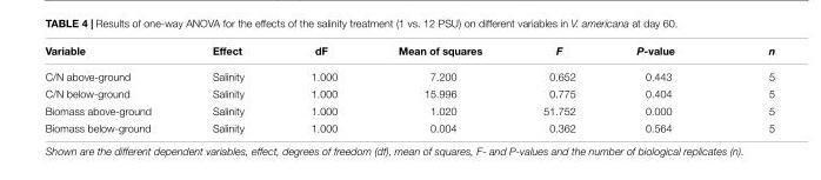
<table><thead><tr><td>Variable</td><td>Effect</td><td>dF</td><td>Mean of squares</td><td>F</td><td>P-value</td><td>n</td></tr></thead><tbody><tr><td>C/N above-ground</td><td>Salinity</td><td>1.000</td><td>7.200</td><td>0.652</td><td>0.443</td><td>5</td></tr><tr><td>C/N below-ground</td><td>Salinity</td><td>1.000</td><td>15.996</td><td>0.775</td><td>0.404</td><td>5</td></tr><tr><td>Biomass above-ground</td><td>Salinity</td><td>1.000</td><td>1.020</td><td>51.752</td><td>0.000</td><td>5</td></tr><tr><td>Biomass below-ground</td><td>Salinity</td><td>1.000</td><td>0.004</td><td>0.362</td><td>0.564</td><td>5</td></tr></tbody></table>